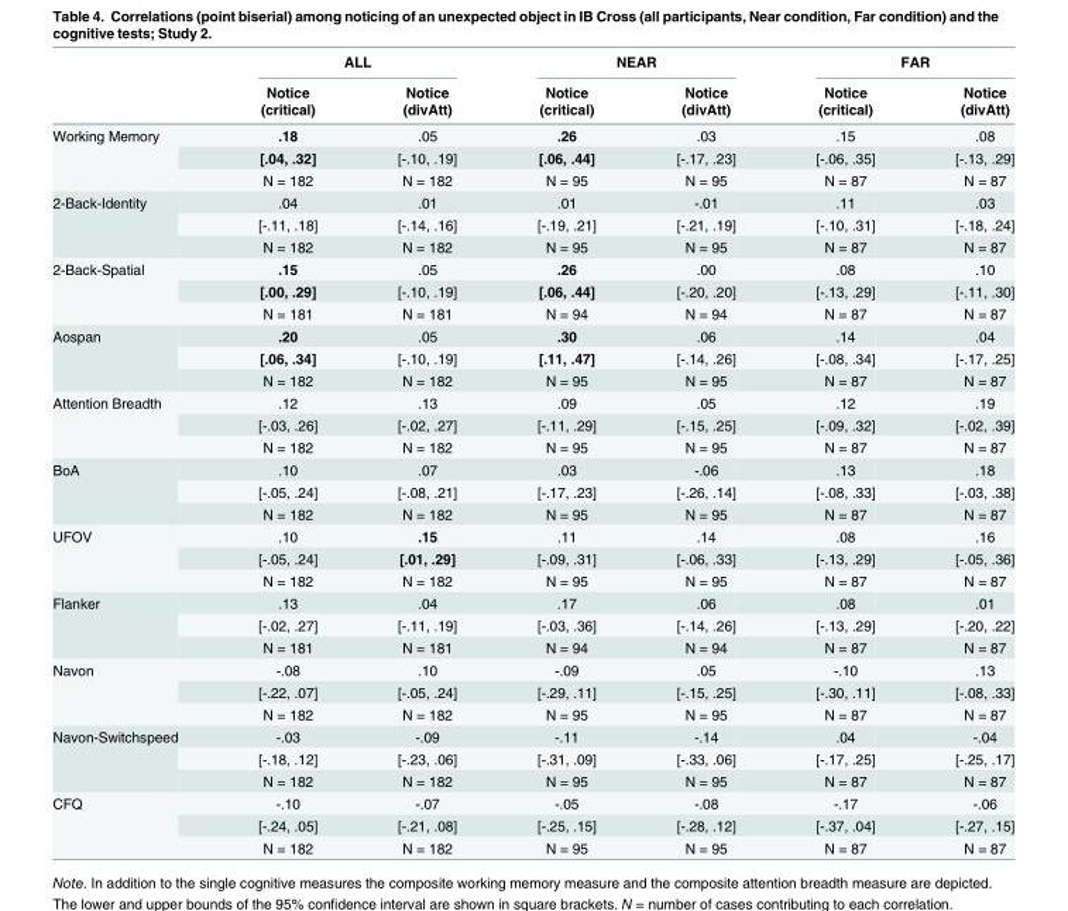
<table><thead><tr><td rowspan="3"></td><td colspan="2">ALL</td><td colspan="2">NEAR</td><td colspan="2">FAR</td></tr><tr><td rowspan="2">Notice (critical)</td><td rowspan="2">Notice (divAtt)</td><td rowspan="2">Notice (critical)</td><td rowspan="2">Notice (divAtt)</td><td rowspan="2">Notice (critical)</td><td rowspan="2">Notice (divAtt)</td></tr><tr></tr></thead><tbody><tr><td rowspan="3">Working Memory</td><td>.18</td><td>.05</td><td>.26</td><td>.03</td><td>.15</td><td>.08</td></tr><tr><td>[.04, .32]</td><td>[-.10, .19]</td><td>[.06, .44]</td><td>[-.17, .23]</td><td>[-.06, .35]</td><td>[-.13, .29]</td></tr><tr><td>N = 182</td><td>N = 182</td><td>N = 95</td><td>N = 95</td><td>N = 87</td><td>N = 87</td></tr><tr><td rowspan="3">2-Back-Identity</td><td>.04</td><td>.01</td><td>.01</td><td>-.01</td><td>.11</td><td>.03</td></tr><tr><td>[-.11, .18]</td><td>[-.14, .16]</td><td>[-.19, .21]</td><td>[-.21, .19]</td><td>[-.10, .31]</td><td>[-.18, .24]</td></tr><tr><td>N = 182</td><td>N = 182</td><td>N = 95</td><td>N = 95</td><td>N = 87</td><td>N = 87</td></tr><tr><td rowspan="3">2-Back-Spatial</td><td>.15</td><td>.05</td><td>.26</td><td>.00</td><td>.08</td><td>.10</td></tr><tr><td>[.00, .29]</td><td>[-.10, .19]</td><td>[.06, .44]</td><td>[-.20, .20]</td><td>[-.13, .29]</td><td>[-.11, .30]</td></tr><tr><td>N = 181</td><td>N = 181</td><td>N = 94</td><td>N = 94</td><td>N = 87</td><td>N = 87</td></tr><tr><td rowspan="3">Aospan</td><td>.20</td><td>.05</td><td>.30</td><td>.06</td><td>.14</td><td>.04</td></tr><tr><td>[.06, .34]</td><td>[-.10, .19]</td><td>[.11, .47]</td><td>[-.14, .26]</td><td>[-.08, .34]</td><td>[-.17, .25]</td></tr><tr><td>N = 182</td><td>N = 182</td><td>N = 95</td><td>N = 95</td><td>N = 87</td><td>N = 87</td></tr><tr><td rowspan="3">Attention Breadth</td><td>.12</td><td>.13</td><td>.09</td><td>.05</td><td>.12</td><td>.19</td></tr><tr><td>[-.03, .26]</td><td>[-.02, .27]</td><td>[-.11, .29]</td><td>[-.15, .25]</td><td>[-.09, .32]</td><td>[-.02, .39]</td></tr><tr><td>N = 182</td><td>N = 182</td><td>N = 95</td><td>N = 95</td><td>N = 87</td><td>N = 87</td></tr><tr><td rowspan="3">BoA</td><td>.10</td><td>.07</td><td>.03</td><td>-.06</td><td>.13</td><td>.18</td></tr><tr><td>[-.05, .24]</td><td>[-.08, .21]</td><td>[-.17, .23]</td><td>[-.26, .14]</td><td>[-.08, .33]</td><td>[-.03, .38]</td></tr><tr><td>N = 182</td><td>N = 182</td><td>N = 95</td><td>N = 95</td><td>N = 87</td><td>N = 87</td></tr><tr><td rowspan="3">UFOV</td><td>.10</td><td>.15</td><td>.11</td><td>.14</td><td>.08</td><td>.16</td></tr><tr><td>[-.05, .24]</td><td>[.01, .29]</td><td>[-.09, .31]</td><td>[-.06, .33]</td><td>[-.13, .29]</td><td>[-.05, .36]</td></tr><tr><td>N = 182</td><td>N = 182</td><td>N = 95</td><td>N = 95</td><td>N = 87</td><td>N = 87</td></tr><tr><td rowspan="3">Flanker</td><td>.13</td><td>.04</td><td>.17</td><td>.06</td><td>.08</td><td>.01</td></tr><tr><td>[-.02, .27]</td><td>[-.11, .19]</td><td>[-.03, .36]</td><td>[-.14, .26]</td><td>[-.13, .29]</td><td>[-.20, .22]</td></tr><tr><td>N = 181</td><td>N = 181</td><td>N = 94</td><td>N = 94</td><td>N = 87</td><td>N = 87</td></tr><tr><td rowspan="3">Navon</td><td>-.08</td><td>.10</td><td>-.09</td><td>.05</td><td>-.10</td><td>.13</td></tr><tr><td>[-.22, .07]</td><td>[-.05, .24]</td><td>[-.29, .11]</td><td>[-.15, .25]</td><td>[-.30, .11]</td><td>[-.08, .33]</td></tr><tr><td>N = 182</td><td>N = 182</td><td>N = 95</td><td>N = 95</td><td>N = 87</td><td>N = 87</td></tr><tr><td rowspan="3">Navon-Switchspeed</td><td>-.03</td><td>-.09</td><td>-.11</td><td>-.14</td><td>.04</td><td>-.04</td></tr><tr><td>[-.18, .12]</td><td>[-.23, .06]</td><td>[-.31, .09]</td><td>[-.33, .06]</td><td>[-.17, .25]</td><td>[-.25, .17]</td></tr><tr><td>N = 182</td><td>N = 182</td><td>N = 95</td><td>N = 95</td><td>N = 87</td><td>N = 87</td></tr><tr><td rowspan="3">CFQ</td><td>-.10</td><td>-.07</td><td>-.05</td><td>-.08</td><td>-.17</td><td>-.06</td></tr><tr><td>[-.24, .05]</td><td>[-.21, .08]</td><td>[-.25, .15]</td><td>[-.28, .12]</td><td>[-.37, .04]</td><td>[-.27, .15]</td></tr><tr><td>N = 182</td><td>N = 182</td><td>N = 95</td><td>N = 95</td><td>N = 87</td><td>N = 87</td></tr></tbody></table>